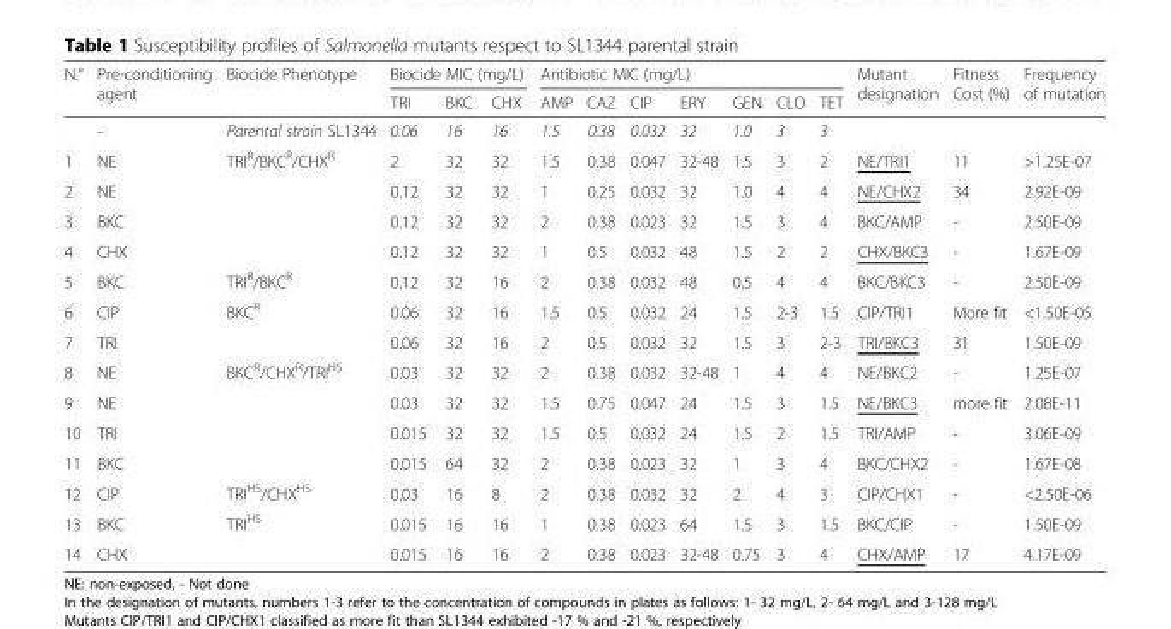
<table><thead><tr><td rowspan="2">N.°</td><td rowspan="2">Pre-conditioning agent</td><td rowspan="2">Biocide Phenotype</td><td colspan="3">Biocide MIC (mg/L)</td><td colspan="7">Antibiotic MIC (mg/L)</td><td rowspan="2">Mutant designation</td><td rowspan="2">Fitness Cost (%)</td><td rowspan="2">Frequency of mutation</td></tr><tr><td>TRI</td><td>BKC</td><td>CHX</td><td>AMP</td><td>CAZ</td><td>CIP</td><td>ERY</td><td>GEN</td><td>CLO</td><td>TET</td></tr></thead><tbody><tr><td></td><td>-</td><td>Parental strain SL1344</td><td>0.06</td><td>16</td><td>16</td><td>1.5</td><td>0.38</td><td>0.032</td><td>32</td><td>1.0</td><td>3</td><td>3</td><td></td><td></td><td></td></tr><tr><td>1</td><td>NE</td><td rowspan="4">TRI<sup>R</sup>/BKC<sup>R</sup>/CHX<sup>R</sup></td><td>2</td><td>32</td><td>32</td><td>1.5</td><td>0.38</td><td>0.047</td><td>32-48</td><td>1.5</td><td>3</td><td>2</td><td>NE/TRI1</td><td>11</td><td>&gt;1.25E-07</td></tr><tr><td>2</td><td>NE</td><td>0.12</td><td>32</td><td>32</td><td>1</td><td>0.25</td><td>0.032</td><td>32</td><td>1.0</td><td>4</td><td>4</td><td>NE/CHX2</td><td>34</td><td>2.92E-09</td></tr><tr><td>3</td><td>BKC</td><td>0.12</td><td>32</td><td>32</td><td>2</td><td>0.38</td><td>0.023</td><td>32</td><td>1.5</td><td>3</td><td>4</td><td>BKC/AMP</td><td>-</td><td>2.50E-09</td></tr><tr><td>4</td><td>CHX</td><td>0.12</td><td>32</td><td>32</td><td>1</td><td>0.5</td><td>0.032</td><td>48</td><td>1.5</td><td>2</td><td>2</td><td>CHX/BKC3</td><td>-</td><td>1.67E-09</td></tr><tr><td>5</td><td>BKC</td><td>TRI<sup>R</sup>/BKC<sup>R</sup></td><td>0.12</td><td>32</td><td>16</td><td>2</td><td>0.38</td><td>0.032</td><td>48</td><td>0.5</td><td>4</td><td>4</td><td>BKC/BKC3</td><td>-</td><td>2.50E-09</td></tr><tr><td>6</td><td>CIP</td><td rowspan="2">BKC<sup>R</sup></td><td>0.06</td><td>32</td><td>16</td><td>1.5</td><td>0.5</td><td>0.032</td><td>24</td><td>1.5</td><td>2-3</td><td>1.5</td><td>CIP/TRI1</td><td>More fit</td><td>&lt;1.50E-05</td></tr><tr><td>7</td><td>TRI</td><td>0.06</td><td>32</td><td>16</td><td>2</td><td>0.5</td><td>0.032</td><td>32</td><td>1.5</td><td>3</td><td>2-3</td><td>TRI/BKC3</td><td>31</td><td>1.50E-09</td></tr><tr><td>8</td><td>NE</td><td rowspan="4">BKC<sup>R</sup>/CHX<sup>R</sup>/TRI<sup>HS</sup></td><td>0.03</td><td>32</td><td>32</td><td>2</td><td>0.38</td><td>0.032</td><td>32-48</td><td>1</td><td>4</td><td>4</td><td>NE/BKC2</td><td>-</td><td>1.25E-07</td></tr><tr><td>9</td><td>NE</td><td>0.03</td><td>32</td><td>32</td><td>1.5</td><td>0.75</td><td>0.047</td><td>24</td><td>1.5</td><td>3</td><td>1.5</td><td>NE/BKC3</td><td>more fit</td><td>2.08E-11</td></tr><tr><td>10</td><td>TRI</td><td>0.015</td><td>32</td><td>32</td><td>1.5</td><td>0.5</td><td>0.032</td><td>24</td><td>1.5</td><td>2</td><td>1.5</td><td>TRI/AMP</td><td>-</td><td>3.06E-09</td></tr><tr><td>11</td><td>BKC</td><td>0.015</td><td>64</td><td>32</td><td>2</td><td>0.38</td><td>0.023</td><td>32</td><td>1</td><td>3</td><td>4</td><td>BKC/CHX2</td><td>-</td><td>1.67E-08</td></tr><tr><td>12</td><td>CIP</td><td>TRI<sup>HS</sup>/CHX<sup>HS</sup></td><td>0.03</td><td>16</td><td>8</td><td>2</td><td>0.38</td><td>0.032</td><td>32</td><td>2</td><td>4</td><td>3</td><td>CIP/CHX1</td><td>-</td><td>&lt;2.50E-06</td></tr><tr><td>13</td><td>BKC</td><td rowspan="2">TRI<sup>HS</sup></td><td>0.015</td><td>16</td><td>16</td><td>1</td><td>0.38</td><td>0.023</td><td>64</td><td>1.5</td><td>3</td><td>1.5</td><td>BKC/CIP</td><td>-</td><td>1.50E-09</td></tr><tr><td>14</td><td>CHX</td><td>0.015</td><td>16</td><td>16</td><td>2</td><td>0.38</td><td>0.023</td><td>32-48</td><td>0.75</td><td>3</td><td>4</td><td>CHX/AMP</td><td>17</td><td>4.17E-09</td></tr></tbody></table>